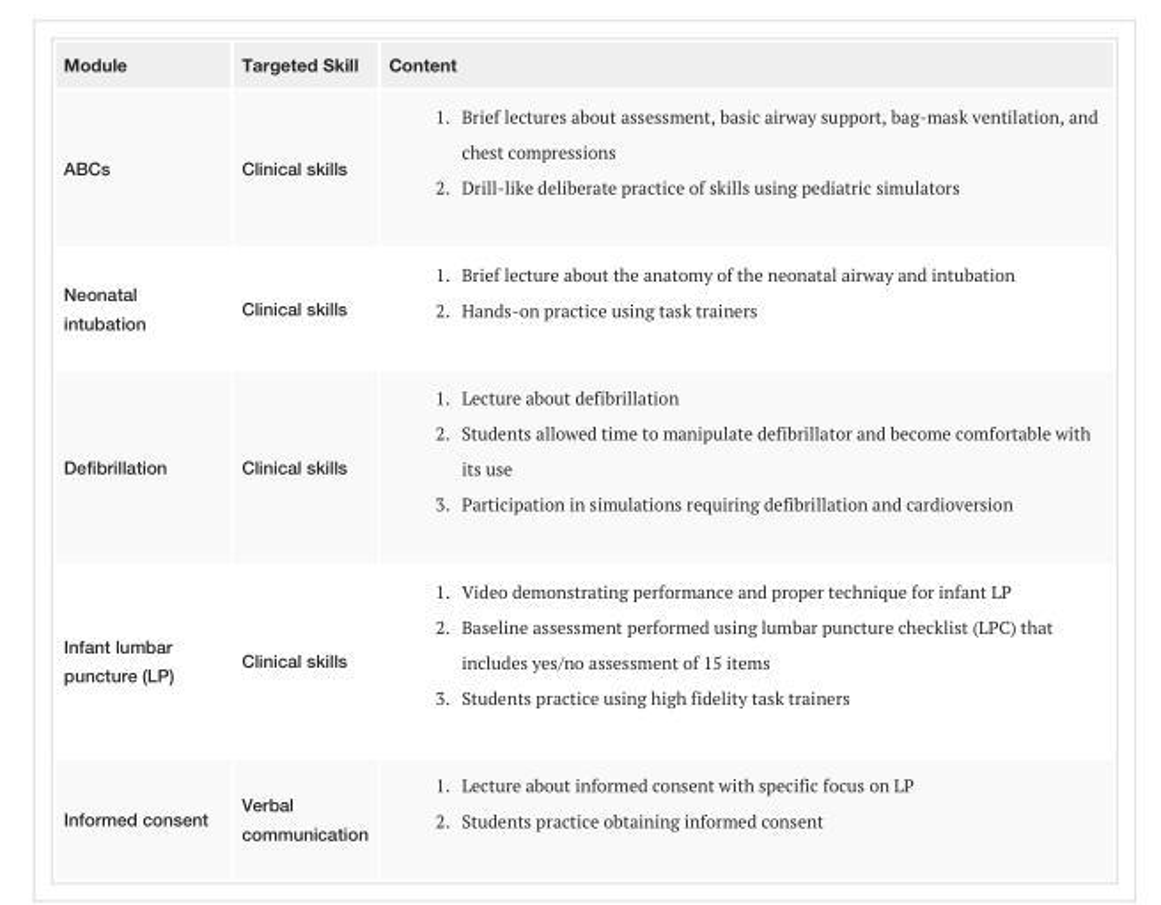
<table><tbody><tr><td>Module</td><td>Targeted Skill</td><td>Content</td></tr><tr><td>ABCs</td><td>Clinical skills</td><td>1. Brief lectures about assessment, basic airway support, bag-mask ventilation, and chest compressions 2. Drill-like deliberate practice of skills using pediatric simulators</td></tr><tr><td>Neonatal intubation</td><td>Clinical skills</td><td>1. Brief lecture about the anatomy of the neonatal airway and intubation 2. Hands-on practice using task trainers</td></tr><tr><td>Defibrillation</td><td>Clinical skills</td><td>1. Lecture about defibrillation 2. Students allowed time to manipulate defibrillator and become comfortable with its use 3. Participation in simulations requiring defibrillation and cardioversion</td></tr><tr><td>Infant lumbar puncture (LP)</td><td>Clinical skills</td><td>1. Video demonstrating performance and proper technique for infant LP 2. Baseline assessment performed using lumbar puncture checklist (LPC) that includes yes/no assessment of 15 items 3. Students practice using high fidelity task trainers</td></tr><tr><td>Informed consent</td><td>Verbal communication</td><td>1. Lecture about informed consent with specific focus on LP 2. Students practice obtaining informed consent</td></tr></tbody></table>